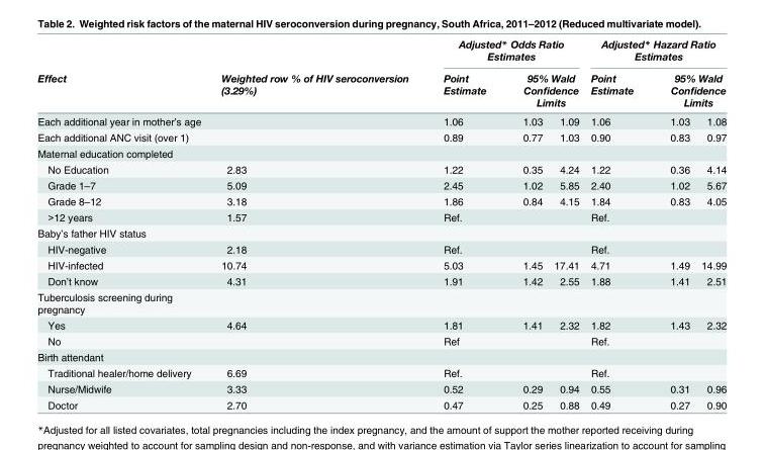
<table><thead><tr><td rowspan="3">Effect Each additional year in mother’s age</td><td rowspan="3">Weighted row % of HIV seroconversion (3.29%)</td><td colspan="3">Adjusted* Odds Ratio Estimates</td><td colspan="3">Adjusted* Hazard Ratio Estimates</td></tr><tr><td rowspan="2">Point Estimate 1.06</td><td colspan="2">95% Wald Confidence Limits</td><td rowspan="2">Point Estimate 1.06</td><td colspan="2">95% Wald Confidence Limits</td></tr><tr><td>1.03</td><td>1.09</td><td>1.03</td><td>1.08</td></tr></thead><tbody><tr><td>Each additional ANC visit (over 1)</td><td></td><td>0.89</td><td>0.77</td><td>1.03</td><td>0.90</td><td>0.83</td><td>0.97</td></tr><tr><td colspan="8">Maternal education completed</td></tr><tr><td>No Education</td><td>2.83</td><td>1.22</td><td>0.35</td><td>4.24</td><td>1.22</td><td>0.36</td><td>4.14</td></tr><tr><td>Grade 1–7</td><td>5.09</td><td>2.45</td><td>1.02</td><td>5.85</td><td>2.40</td><td>1.02</td><td>5.67</td></tr><tr><td>Grade 8–12</td><td>3.18</td><td>1.86</td><td>0.84</td><td>4.15</td><td>1.84</td><td>0.83</td><td>4.05</td></tr><tr><td>&gt;12 years</td><td>1.57</td><td>Ref.</td><td></td><td></td><td>Ref.</td><td></td><td></td></tr><tr><td colspan="8">Baby’s father HIV status</td></tr><tr><td>HIV-negative</td><td>2.18</td><td>Ref.</td><td></td><td></td><td>Ref.</td><td></td><td></td></tr><tr><td>HIV-infected</td><td>10.74</td><td>5.03</td><td>1.45</td><td>17.41</td><td>4.71</td><td>1.49</td><td>14.99</td></tr><tr><td>Don’t know</td><td>4.31</td><td>1.91</td><td>1.42</td><td>2.55</td><td>1.88</td><td>1.41</td><td>2.51</td></tr><tr><td colspan="8">Tuberculosis screening during pregnancy</td></tr><tr><td>Yes</td><td>4.64</td><td>1.81</td><td>1.41</td><td>2.32</td><td>1.82</td><td>1.43</td><td>2.32</td></tr><tr><td>No</td><td></td><td>Ref</td><td></td><td></td><td>Ref.</td><td></td><td></td></tr><tr><td colspan="8">Birth attendant</td></tr><tr><td>Traditional healer/home delivery</td><td>6.69</td><td>Ref.</td><td></td><td></td><td>Ref.</td><td></td><td></td></tr><tr><td>Nurse/Midwife</td><td>3.33</td><td>0.52</td><td>0.29</td><td>0.94</td><td>0.55</td><td>0.31</td><td>0.96</td></tr><tr><td>Doctor</td><td>2.70</td><td>0.47</td><td>0.25</td><td>0.88</td><td>0.49</td><td>0.27</td><td>0.90</td></tr></tbody></table>